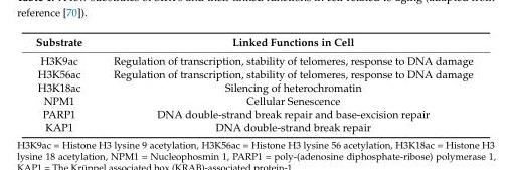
<table><thead><tr><td>Substrate</td><td>Linked Functions in Cell</td></tr></thead><tbody><tr><td>H3K9ac</td><td>Regulation of transcription, stability of telomeres, response to DNA damage</td></tr><tr><td>H3K56ac</td><td>Regulation of transcription, stability of telomeres, response to DNA damage</td></tr><tr><td>H3K18ac</td><td>Silencing of heterochromatin</td></tr><tr><td>NPM1</td><td>Cellular Senescence</td></tr><tr><td>PARP1</td><td>DNA double-strand break repair and base-excision repair</td></tr><tr><td>KAP1</td><td>DNA double-strand break repair</td></tr></tbody></table>